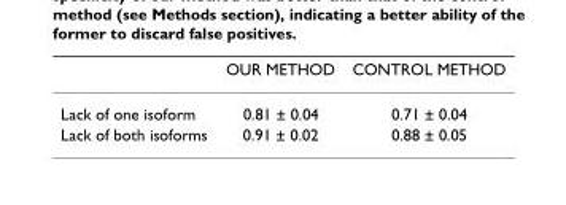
<table><thead><tr><td></td><td>OUR METHOD</td><td>CONTROL METHOD</td></tr></thead><tbody><tr><td>Lack of one isoform</td><td>0.81 ± 0.04</td><td>0.71 ± 0.04</td></tr><tr><td>Lack of both isoforms</td><td>0.91 ± 0.02</td><td>0.88 ± 0.05</td></tr></tbody></table>